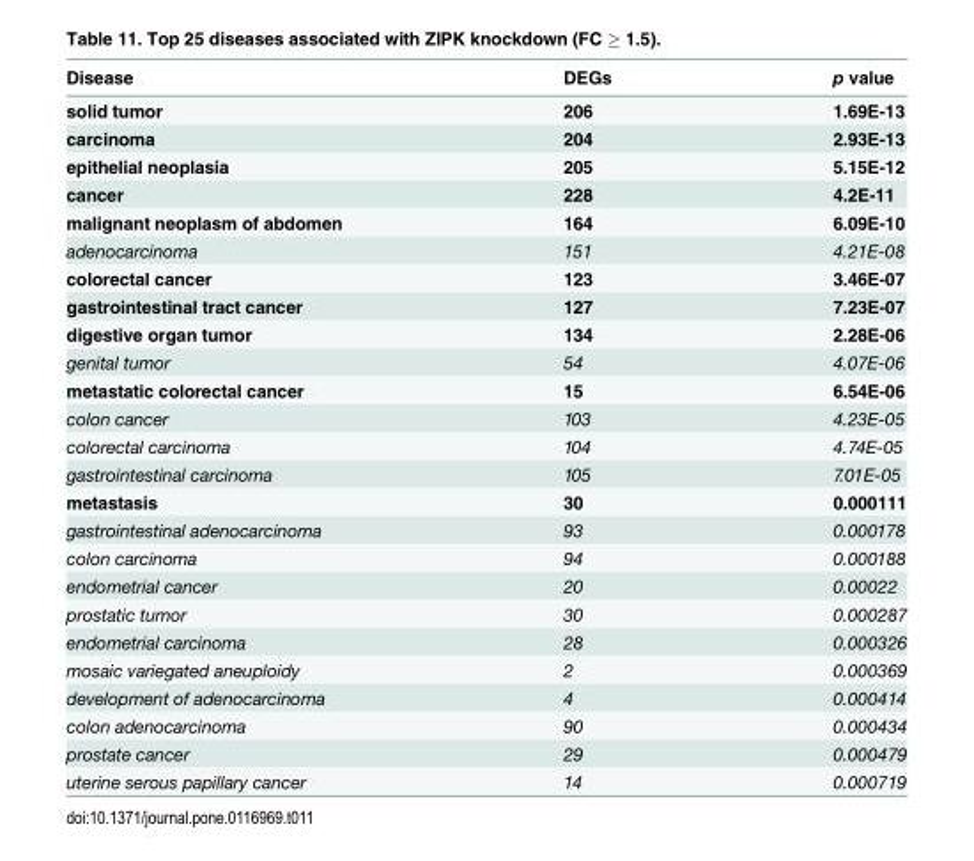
<table><thead><tr><td>Disease</td><td>DEGs</td><td>p value</td></tr></thead><tbody><tr><td>solid tumor</td><td>206</td><td>1.69E-13</td></tr><tr><td>carcinoma</td><td>204</td><td>2.93E-13</td></tr><tr><td>epithelial neoplasia</td><td>205</td><td>5.15E-12</td></tr><tr><td>cancer</td><td>228</td><td>4.2E-11</td></tr><tr><td>malignant neoplasm of abdomen</td><td>164</td><td>6.09E-10</td></tr><tr><td>adenocarcinoma</td><td>151</td><td>4.21E-08</td></tr><tr><td>colorectal cancer</td><td>123</td><td>3.46E-07</td></tr><tr><td>gastrointestinal tract cancer</td><td>127</td><td>7.23E-07</td></tr><tr><td>digestive organ tumor</td><td>134</td><td>2.28E-06</td></tr><tr><td>genital tumor</td><td>54</td><td>4.07E-06</td></tr><tr><td>metastatic colorectal cancer</td><td>15</td><td>6.54E-06</td></tr><tr><td>colon cancer</td><td>103</td><td>4.23E-05</td></tr><tr><td>colorectal carcinoma</td><td>104</td><td>4.74E-05</td></tr><tr><td>gastrointestinal carcinoma</td><td>105</td><td>7.01E-05</td></tr><tr><td>metastasis</td><td>30</td><td>0.000111</td></tr><tr><td>gastrointestinal adenocarcinoma</td><td>93</td><td>0.000178</td></tr><tr><td>colon carcinoma</td><td>94</td><td>0.000188</td></tr><tr><td>endometrial cancer</td><td>20</td><td>0.00022</td></tr><tr><td>prostatic tumor</td><td>30</td><td>0.000287</td></tr><tr><td>endometrial carcinoma</td><td>28</td><td>0.000326</td></tr><tr><td>mosaic variegated aneuploidy</td><td>2</td><td>0.000369</td></tr><tr><td>development of adenocarcinoma</td><td>4</td><td>0.000414</td></tr><tr><td>colon adenocarcinoma</td><td>90</td><td>0.000434</td></tr><tr><td>prostate cancer</td><td>29</td><td>0.000479</td></tr><tr><td>uterine serous papillary cancer</td><td>14</td><td>0.000719</td></tr></tbody></table>